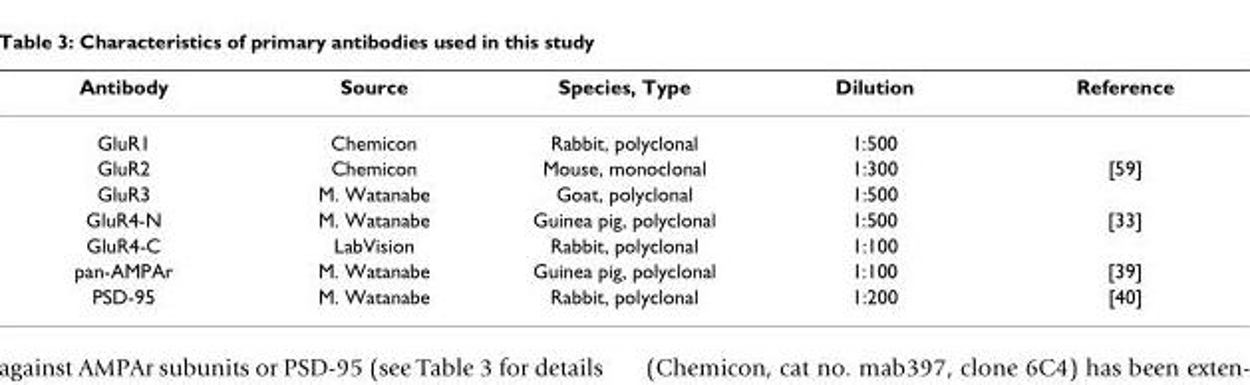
<table><thead><tr><td>Antibody</td><td>Source</td><td>Species, Type</td><td>Dilution</td><td>Reference</td></tr></thead><tbody><tr><td>GluR1</td><td>Chemicon</td><td>Rabbit, polyclonal</td><td>1:500</td><td></td></tr><tr><td>GluR2</td><td>Chemicon</td><td>Mouse, monoclonal</td><td>1:300</td><td>[59]</td></tr><tr><td>GluR3</td><td>M. Watanabe</td><td>Goat, polyclonal</td><td>1:500</td><td></td></tr><tr><td>GluR4-N</td><td>M. Watanabe</td><td>Guinea pig, polyclonal</td><td>1:500</td><td>[33]</td></tr><tr><td>GluR4-C</td><td>LabVision</td><td>Rabbit, polyclonal</td><td>1:100</td><td></td></tr><tr><td>pan-AMPAr</td><td>M. Watanabe</td><td>Guinea pig, polyclonal</td><td>1:100</td><td>[39]</td></tr><tr><td>PSD-95</td><td>M. Watanabe</td><td>Rabbit, polyclonal</td><td>1:200</td><td>[40]</td></tr></tbody></table>